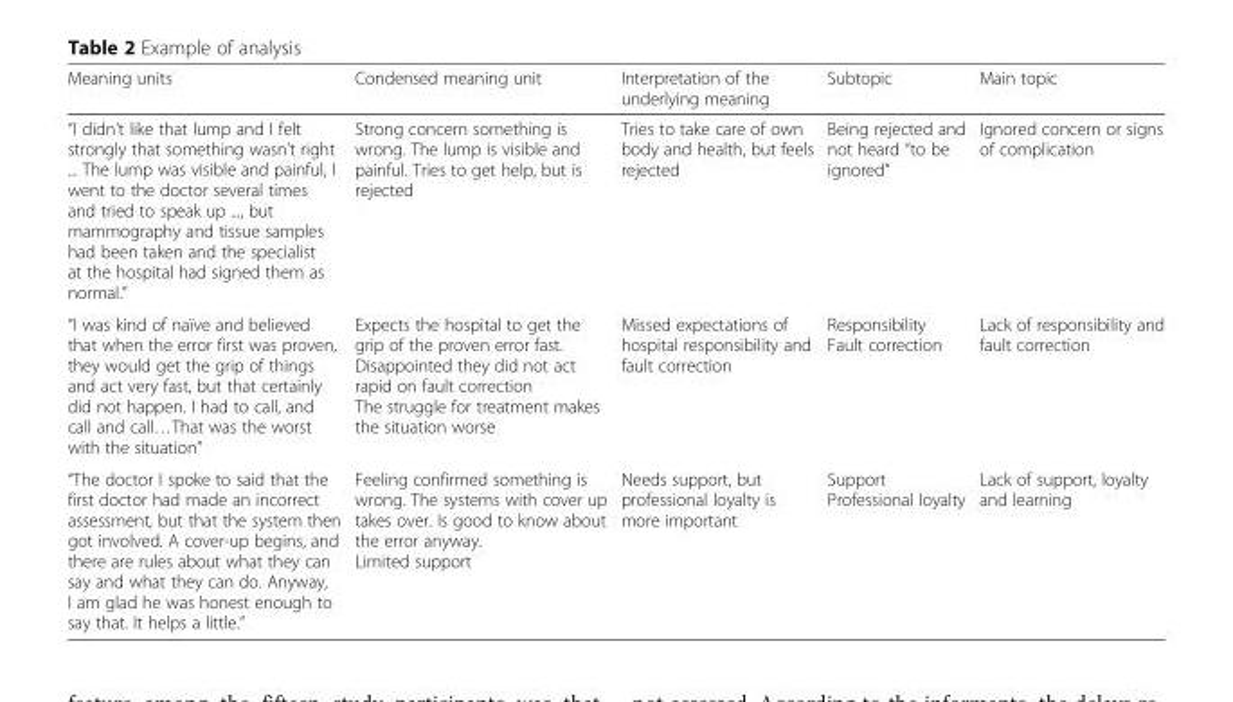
<table><thead><tr><td>Meaning units</td><td>Condensed meaning unit</td><td>Interpretation of the underlying meaning</td><td>Subtopic</td><td>Main topic</td></tr></thead><tbody><tr><td>“I didn’t like that lump and I felt strongly that something wasn’t right ... The lump was visible and painful, I went to the doctor several times and tried to speak up ..., but mammography and tissue samples had been taken and the specialist at the hospital had signed them as normal.”</td><td>Strong concern something is wrong. The lump is visible and painful. Tries to get help, but is rejected</td><td>Tries to take care of own body and health, but feels rejected</td><td>Being rejected and not heard “to be ignored”</td><td>Ignored concern or signs of complication</td></tr><tr><td>“I was kind of naïve and believed that when the error first was proven, they would get the grip of things and act very fast, but that certainly did not happen. I had to call, and call and call…That was the worst with the situation”</td><td>Expects the hospital to get the grip of the proven error fast. Disappointed they did not act rapid on fault correction The struggle for treatment makes the situation worse</td><td>Missed expectations of hospital responsibility and fault correction</td><td>Responsibility Fault correction</td><td>Lack of responsibility and fault correction</td></tr><tr><td>“The doctor I spoke to said that the first doctor had made an incorrect assessment, but that the system then got involved. A cover-up begins, and there are rules about what they can say and what they can do. Anyway, I am glad he was honest enough to say that. It helps a little.”</td><td>Feeling confirmed something is wrong. The systems with cover up takes over. Is good to know about the error anyway. Limited support</td><td>Needs support, but professional loyalty is more important</td><td>Support Professional loyalty</td><td>Lack of support, loyalty and learning</td></tr></tbody></table>